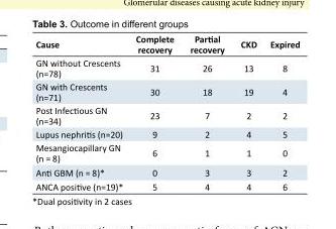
<table><tbody><tr><td>Cause</td><td>Complete recovery</td><td>Partial recovery</td><td>CKD</td><td>Expired</td></tr><tr><td>GN without Crescents (n=78)</td><td>31</td><td>26</td><td>13</td><td>8</td></tr><tr><td>GN with Crescents (n=71)</td><td>30</td><td>18</td><td>19</td><td>4</td></tr><tr><td>Post Infectious GN (n=34)</td><td>23</td><td>7</td><td>2</td><td>2</td></tr><tr><td>Lupus nephritis (n=20)</td><td>9</td><td>2</td><td>4</td><td>5</td></tr><tr><td>Mesangiocapillary GN (n = 8)</td><td>6</td><td>1</td><td>1</td><td>0</td></tr><tr><td>Anti GBM (n = 8)*</td><td>0</td><td>3</td><td>3</td><td>2</td></tr><tr><td>ANCA positive (n=19)*</td><td>5</td><td>4</td><td>4</td><td>6</td></tr></tbody></table>